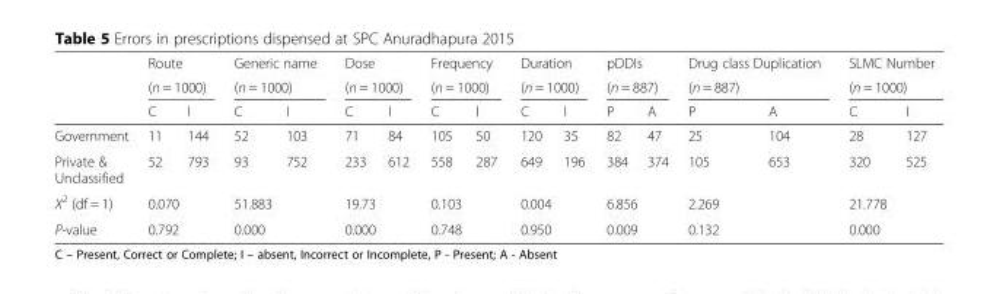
<table><thead><tr><td rowspan="3"></td><td rowspan="2" colspan="2">Route (n = 1000)</td><td rowspan="2" colspan="2">Generic name (n = 1000)</td><td rowspan="2" colspan="2">Dose (n = 1000)</td><td rowspan="2" colspan="2">Frequency (n = 1000)</td><td rowspan="2" colspan="2">Duration (n = 1000)</td><td rowspan="2" colspan="2">pDDIs (n = 887)</td><td rowspan="2" colspan="2">Drug class Duplication (n = 887)</td><td rowspan="2" colspan="2">SLMC Number (n = 1000)</td></tr><tr></tr><tr><td>C</td><td>I</td><td>C</td><td>I</td><td>C</td><td>I</td><td>C</td><td>I</td><td>C</td><td>I</td><td>P</td><td>A</td><td>P</td><td>A</td><td>C</td><td>I</td></tr></thead><tbody><tr><td>Government</td><td>11</td><td>144</td><td>52</td><td>103</td><td>71</td><td>84</td><td>105</td><td>50</td><td>120</td><td>35</td><td>82</td><td>47</td><td>25</td><td>104</td><td>28</td><td>127</td></tr><tr><td>Private &amp; Unclassified</td><td>52</td><td>793</td><td>93</td><td>752</td><td>233</td><td>612</td><td>558</td><td>287</td><td>649</td><td>196</td><td>384</td><td>374</td><td>105</td><td>653</td><td>320</td><td>525</td></tr><tr><td>X<sup>2</sup> (df = 1)</td><td colspan="2">0.070</td><td colspan="2">51.883</td><td colspan="2">19.73</td><td colspan="2">0.103</td><td colspan="2">0.004</td><td colspan="2">6.856</td><td colspan="2">2.269</td><td colspan="2">21.778</td></tr><tr><td>P-value</td><td colspan="2">0.792</td><td colspan="2">0.000</td><td colspan="2">0.000</td><td colspan="2">0.748</td><td colspan="2">0.950</td><td colspan="2">0.009</td><td colspan="2">0.132</td><td colspan="2">0.000</td></tr></tbody></table>